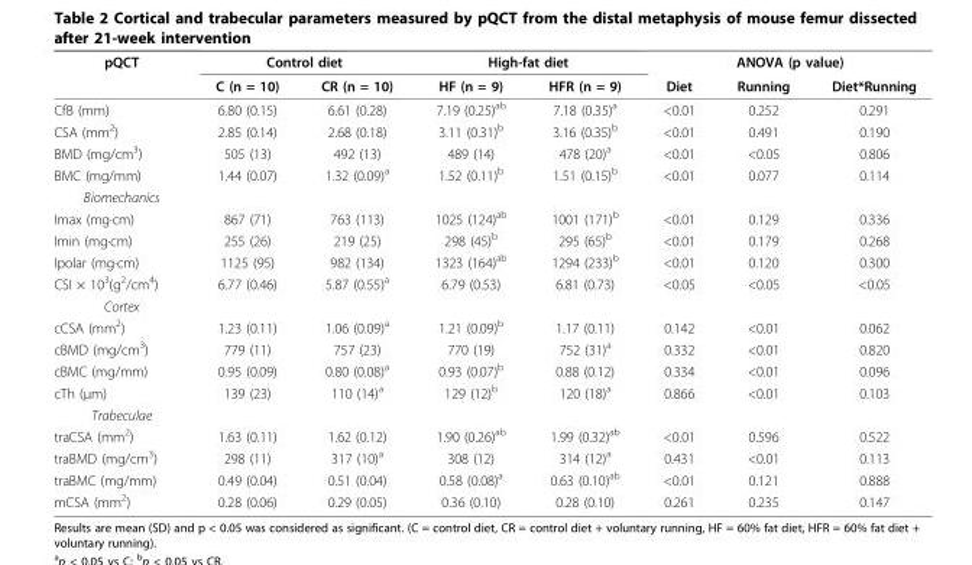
<table><thead><tr><td rowspan="2">pQCT</td><td colspan="2">Control diet</td><td colspan="2">High-fat diet</td><td colspan="3">ANOVA (p value)</td></tr><tr><td>C (n = 10)</td><td>CR (n = 10)</td><td>HF (n = 9)</td><td>HFR (n = 9)</td><td>Diet</td><td>Running</td><td>Diet*Running</td></tr></thead><tbody><tr><td>CfB (mm)</td><td>6.80 (0.15)</td><td>6.61 (0.28)</td><td>7.19 (0.25)<sup>ab</sup></td><td>7.18 (0.35)<sup>a</sup></td><td>&lt;0.01</td><td>0.252</td><td>0.291</td></tr><tr><td>CSA (mm<sup>2</sup>)</td><td>2.85 (0.14)</td><td>2.68 (0.18)</td><td>3.11 (0.31)<sup>b</sup></td><td>3.16 (0.35)<sup>b</sup></td><td>&lt;0.01</td><td>0.491</td><td>0.190</td></tr><tr><td>BMD (mg/cm<sup>3</sup>)</td><td>505 (13)</td><td>492 (13)</td><td>489 (14)</td><td>478 (20)<sup>a</sup></td><td>&lt;0.01</td><td>&lt;0.05</td><td>0.806</td></tr><tr><td>BMC (mg/mm)</td><td>1.44 (0.07)</td><td>1.32 (0.09)<sup>a</sup></td><td>1.52 (0.11)<sup>b</sup></td><td>1.51 (0.15)<sup>b</sup></td><td>&lt;0.01</td><td>0.077</td><td>0.114</td></tr><tr><td colspan="8">Biomechanics</td></tr><tr><td>Imax (mg·cm)</td><td>867 (71)</td><td>763 (113)</td><td>1025 (124)<sup>ab</sup></td><td>1001 (171)<sup>b</sup></td><td>&lt;0.01</td><td>0.129</td><td>0.336</td></tr><tr><td>Imin (mg·cm)</td><td>255 (26)</td><td>219 (25)</td><td>298 (45)<sup>b</sup></td><td>295 (65)<sup>b</sup></td><td>&lt;0.01</td><td>0.179</td><td>0.268</td></tr><tr><td>Ipolar (mg·cm)</td><td>1125 (95)</td><td>982 (134)</td><td>1323 (164)<sup>ab</sup></td><td>1294 (233)<sup>b</sup></td><td>&lt;0.01</td><td>0.120</td><td>0.300</td></tr><tr><td>CSI × 10<sup>3</sup>(g<sup>2</sup>/cm<sup>4</sup>)</td><td>6.77 (0.46)</td><td>5.87 (0.55)<sup>a</sup></td><td>6.79 (0.53)</td><td>6.81 (0.73)</td><td>&lt;0.05</td><td>&lt;0.05</td><td>&lt;0.05</td></tr><tr><td colspan="8">Cortex</td></tr><tr><td>cCSA (mm<sup>2</sup>)</td><td>1.23 (0.11)</td><td>1.06 (0.09)<sup>a</sup></td><td>1.21 (0.09)<sup>b</sup></td><td>1.17 (0.11)</td><td>0.142</td><td>&lt;0.01</td><td>0.062</td></tr><tr><td>cBMD (mg/cm<sup>3</sup>)</td><td>779 (11)</td><td>757 (23)</td><td>770 (19)</td><td>752 (31)<sup>a</sup></td><td>0.332</td><td>&lt;0.01</td><td>0.820</td></tr><tr><td>cBMC (mg/mm)</td><td>0.95 (0.09)</td><td>0.80 (0.08)<sup>a</sup></td><td>0.93 (0.07)<sup>b</sup></td><td>0.88 (0.12)</td><td>0.334</td><td>&lt;0.01</td><td>0.096</td></tr><tr><td>cTh (μm)</td><td>139 (23)</td><td>110 (14)<sup>a</sup></td><td>129 (12)<sup>b</sup></td><td>120 (18)<sup>a</sup></td><td>0.866</td><td>&lt;0.01</td><td>0.103</td></tr><tr><td colspan="8">Trabeculae</td></tr><tr><td>traCSA (mm<sup>2</sup>)</td><td>1.63 (0.11)</td><td>1.62 (0.12)</td><td>1.90 (0.26)<sup>ab</sup></td><td>1.99 (0.32)<sup>ab</sup></td><td>&lt;0.01</td><td>0.596</td><td>0.522</td></tr><tr><td>traBMD (mg/cm<sup>3</sup>)</td><td>298 (11)</td><td>317 (10)<sup>a</sup></td><td>308 (12)</td><td>314 (12)<sup>a</sup></td><td>0.431</td><td>&lt;0.01</td><td>0.113</td></tr><tr><td>traBMC (mg/mm)</td><td>0.49 (0.04)</td><td>0.51 (0.04)</td><td>0.58 (0.08)<sup>a</sup></td><td>0.63 (0.10)<sup>ab</sup></td><td>&lt;0.01</td><td>0.121</td><td>0.888</td></tr><tr><td>mCSA (mm<sup>2</sup>)</td><td>0.28 (0.06)</td><td>0.29 (0.05)</td><td>0.36 (0.10)</td><td>0.28 (0.10)</td><td>0.261</td><td>0.235</td><td>0.147</td></tr></tbody></table>